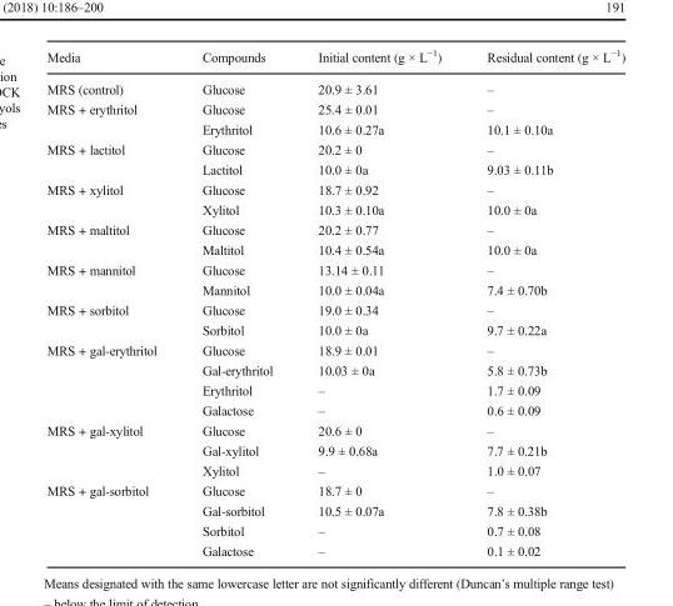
<table><thead><tr><td>Media</td><td>Compounds</td><td>Initial content (g × L<sup>−1</sup>)</td><td>Residual content (g × L<sup>−1</sup>)</td></tr></thead><tbody><tr><td>MRS (control)</td><td>Glucose</td><td>20.9 ± 3.61</td><td>–</td></tr><tr><td rowspan="2">MRS + erythritol</td><td>Glucose</td><td>25.4 ± 0.01</td><td>–</td></tr><tr><td>Erythritol</td><td>10.6 ± 0.27a</td><td>10.1 ± 0.10a</td></tr><tr><td rowspan="2">MRS + lactitol</td><td>Glucose</td><td>20.2 ± 0</td><td>–</td></tr><tr><td>Lactitol</td><td>10.0 ± 0a</td><td>9.03 ± 0.11b</td></tr><tr><td rowspan="2">MRS + xylitol</td><td>Glucose</td><td>18.7 ± 0.92</td><td>–</td></tr><tr><td>Xylitol</td><td>10.3 ± 0.10a</td><td>10.0 ± 0a</td></tr><tr><td rowspan="2">MRS + maltitol</td><td>Glucose</td><td>20.2 ± 0.77</td><td>–</td></tr><tr><td>Maltitol</td><td>10.4 ± 0.54a</td><td>10.0 ± 0a</td></tr><tr><td rowspan="2">MRS + mannitol</td><td>Glucose</td><td>13.14 ± 0.11</td><td>–</td></tr><tr><td>Mannitol</td><td>10.0 ± 0.04a</td><td>7.4 ± 0.70b</td></tr><tr><td rowspan="2">MRS + sorbitol</td><td>Glucose</td><td>19.0 ± 0.34</td><td>–</td></tr><tr><td>Sorbitol</td><td>10.0 ± 0a</td><td>9.7 ± 0.22a</td></tr><tr><td rowspan="4">MRS + gal-erythritol</td><td>Glucose</td><td>18.9 ± 0.01</td><td>–</td></tr><tr><td>Gal-erythritol</td><td>10.03 ± 0a</td><td>5.8 ± 0.73b</td></tr><tr><td>Erythritol</td><td>–</td><td>1.7 ± 0.09</td></tr><tr><td>Galactose</td><td>–</td><td>0.6 ± 0.09</td></tr><tr><td rowspan="3">MRS + gal-xylitol</td><td>Glucose</td><td>20.6 ± 0</td><td>–</td></tr><tr><td>Gal-xylitol</td><td>9.9 ± 0.68a</td><td>7.7 ± 0.21b</td></tr><tr><td>Xylitol</td><td>–</td><td>1.0 ± 0.07</td></tr><tr><td rowspan="4">MRS + gal-sorbitol</td><td>Glucose</td><td>18.7 ± 0</td><td>–</td></tr><tr><td>Gal-sorbitol</td><td>10.5 ± 0.07a</td><td>7.8 ± 0.38b</td></tr><tr><td>Sorbitol</td><td>–</td><td>0.7 ± 0.08</td></tr><tr><td>Galactose</td><td>–</td><td>0.1 ± 0.02</td></tr></tbody></table>